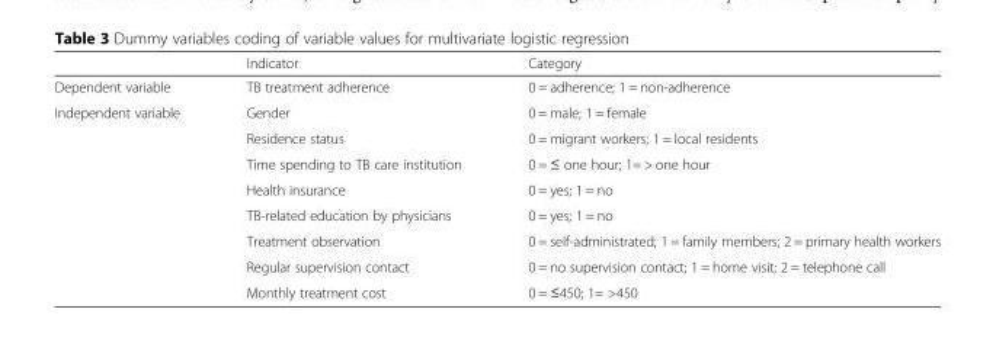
<table><thead><tr><td></td><td>Indicator</td><td>Category</td></tr></thead><tbody><tr><td>Dependent variable</td><td>TB treatment adherence</td><td>0 = adherence; 1 = non-adherence</td></tr><tr><td rowspan="8">Independent variable</td><td>Gender</td><td>0 = male; 1 = female</td></tr><tr><td>Residence status</td><td>0 = migrant workers; 1 = local residents</td></tr><tr><td>Time spending to TB care institution</td><td>0 = ≤ one hour; 1= &gt; one hour</td></tr><tr><td>Health insurance</td><td>0 = yes; 1 = no</td></tr><tr><td>TB-related education by physicians</td><td>0 = yes; 1 = no</td></tr><tr><td>Treatment observation</td><td>0 = self-administrated; 1 = family members; 2 = primary health workers</td></tr><tr><td>Regular supervision contact</td><td>0 = no supervision contact; 1 = home visit; 2 = telephone call</td></tr><tr><td>Monthly treatment cost</td><td>0 = ≤450; 1= &gt;450</td></tr></tbody></table>